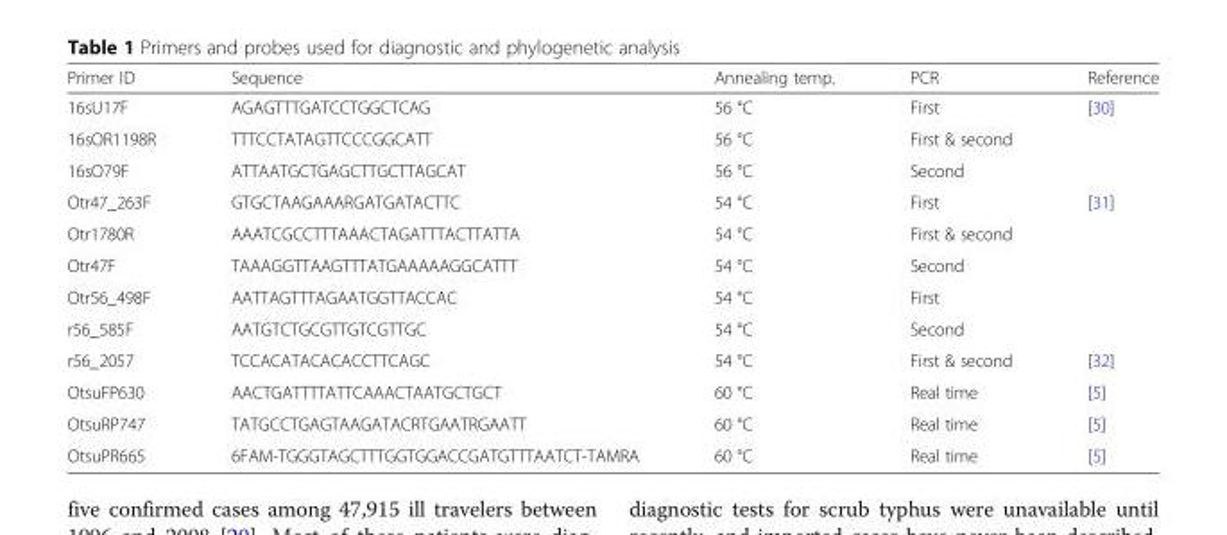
<table><thead><tr><td>Primer ID</td><td>Sequence</td><td>Annealing temp.</td><td>PCR</td><td>Reference</td></tr></thead><tbody><tr><td>16sU17F</td><td>AGAGTTTGATCCTGGCTCAG</td><td>56 °C</td><td>First</td><td rowspan="3">[30]</td></tr><tr><td>16sOR1198R</td><td>TTTCCTATAGTTCCCGGCATT</td><td>56 °C</td><td>First &amp; second</td></tr><tr><td>16sO79F</td><td>ATTAATGCTGAGCTTGCTTAGCAT</td><td>56 °C</td><td>Second</td></tr><tr><td>Otr47_263F</td><td>GTGCTAAGAAARGATGATACTTC</td><td>54 °C</td><td>First</td><td rowspan="5">[31]</td></tr><tr><td>Otr1780R</td><td>AAATCGCCTTTAAACTAGATTTACTTATTA</td><td>54 °C</td><td>First &amp; second</td></tr><tr><td>Otr47F</td><td>TAAAGGTTAAGTTTATGAAAAAGGCATTT</td><td>54 °C</td><td>Second</td></tr><tr><td>Otr56_498F</td><td>AATTAGTTTAGAATGGTTACCAC</td><td>54 °C</td><td>First</td></tr><tr><td>r56_585F</td><td>AATGTCTGCGTTGTCGTTGC</td><td>54 °C</td><td>Second</td></tr><tr><td>r56_2057</td><td>TCCACATACACACCTTCAGC</td><td>54 °C</td><td>First &amp; second</td><td>[32]</td></tr><tr><td>OtsuFP630</td><td>AACTGATTTTATTCAAACTAATGCTGCT</td><td>60 °C</td><td>Real time</td><td>[5]</td></tr><tr><td>OtsuRP747</td><td>TATGCCTGAGTAAGATACRTGAATRGAATT</td><td>60 °C</td><td>Real time</td><td>[5]</td></tr><tr><td>OtsuPR665</td><td>6FAM-TGGGTAGCTTTGGTGGACCGATGTTTAATCT-TAMRA</td><td>60 °C</td><td>Real time</td><td>[5]</td></tr></tbody></table>